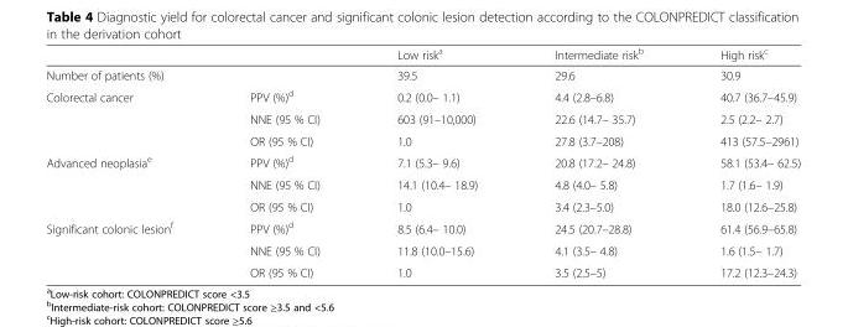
<table><thead><tr><td></td><td></td><td>Low risk<sup>a</sup></td><td>Intermediate risk<sup>b</sup></td><td>High risk<sup>c</sup></td></tr></thead><tbody><tr><td colspan="2">Number of patients (%)</td><td>39.5</td><td>29.6</td><td>30.9</td></tr><tr><td rowspan="3">Colorectal cancer</td><td>PPV (%)<sup>d</sup></td><td>0.2 (0.0– 1.1)</td><td>4.4 (2.8–6.8)</td><td>40.7 (36.7–45.9)</td></tr><tr><td>NNE (95 % CI)</td><td>603 (91–10,000)</td><td>22.6 (14.7– 35.7)</td><td>2.5 (2.2– 2.7)</td></tr><tr><td>OR (95 % CI)</td><td>1.0</td><td>27.8 (3.7–208)</td><td>413 (57.5–2961)</td></tr><tr><td rowspan="3">Advanced neoplasia<sup>e</sup></td><td>PPV (%)<sup>d</sup></td><td>7.1 (5.3– 9.6)</td><td>20.8 (17.2– 24.8)</td><td>58.1 (53.4– 62.5)</td></tr><tr><td>NNE (95 % CI)</td><td>14.1 (10.4– 18.9)</td><td>4.8 (4.0– 5.8)</td><td>1.7 (1.6– 1.9)</td></tr><tr><td>OR (95 % CI)</td><td>1.0</td><td>3.4 (2.3–5.0)</td><td>18.0 (12.6–25.8)</td></tr><tr><td rowspan="3">Significant colonic lesion<sup>f</sup></td><td>PPV (%)<sup>d</sup></td><td>8.5 (6.4– 10.0)</td><td>24.5 (20.7–28.8)</td><td>61.4 (56.9–65.8)</td></tr><tr><td>NNE (95 % CI)</td><td>11.8 (10.0–15.6)</td><td>4.1 (3.5– 4.8)</td><td>1.6 (1.5– 1.7)</td></tr><tr><td>OR (95 % CI)</td><td>1.0</td><td>3.5 (2.5–5)</td><td>17.2 (12.3–24.3)</td></tr></tbody></table>